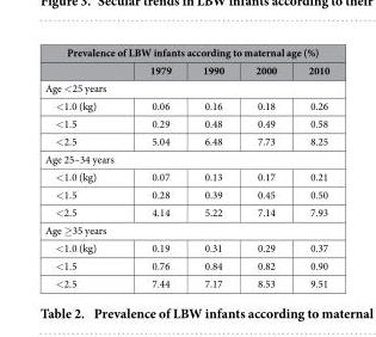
<table><thead><tr><td colspan="5">Prevalence of LBW infants according to maternal age (%)</td></tr><tr><td></td><td>1979</td><td>1990</td><td>2000</td><td>2010</td></tr></thead><tbody><tr><td colspan="5">Age &lt; 25 years</td></tr><tr><td>&lt; 1.0 (kg)</td><td>0.06</td><td>0.16</td><td>0.18</td><td>0.26</td></tr><tr><td>&lt; 1.5</td><td>0.29</td><td>0.48</td><td>0.49</td><td>0.58</td></tr><tr><td>&lt; 2.5</td><td>5.04</td><td>6.48</td><td>7.73</td><td>8.25</td></tr><tr><td colspan="5">Age 25–34 years</td></tr><tr><td>&lt; 1.0 (kg)</td><td>0.07</td><td>0.13</td><td>0.17</td><td>0.21</td></tr><tr><td>&lt; 1.5</td><td>0.28</td><td>0.39</td><td>0.45</td><td>0.50</td></tr><tr><td>&lt; 2.5</td><td>4.14</td><td>5.22</td><td>7.14</td><td>7.93</td></tr><tr><td colspan="5">Age ≥ 35 years</td></tr><tr><td>&lt; 1.0 (kg)</td><td>0.19</td><td>0.31</td><td>0.29</td><td>0.37</td></tr><tr><td>&lt; 1.5</td><td>0.76</td><td>0.84</td><td>0.82</td><td>0.90</td></tr><tr><td>&lt; 2.5</td><td>7.44</td><td>7.17</td><td>8.53</td><td>9.51</td></tr></tbody></table>